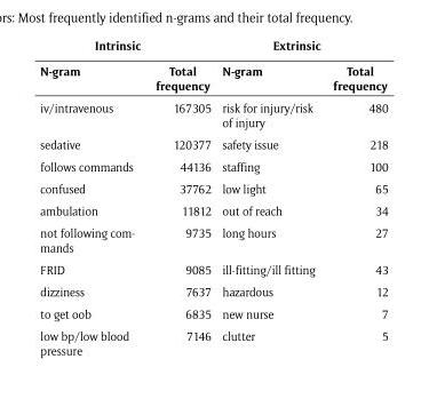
<table><thead><tr><td colspan="2">Intrinsic</td><td colspan="2">Extrinsic</td></tr><tr><td>N-gram</td><td>Total frequency</td><td>N-gram</td><td>Total frequency</td></tr></thead><tbody><tr><td>iv/intravenous</td><td>167305</td><td>risk for injury/risk of injury</td><td>480</td></tr><tr><td>sedative</td><td>120377</td><td>safety issue</td><td>218</td></tr><tr><td>follows commands</td><td>44136</td><td>staffing</td><td>100</td></tr><tr><td>confused</td><td>37762</td><td>low light</td><td>65</td></tr><tr><td>ambulation</td><td>11812</td><td>out of reach</td><td>34</td></tr><tr><td>not following com- mands</td><td>9735</td><td>long hours</td><td>27</td></tr><tr><td>FRID</td><td>9085</td><td>ill-fitting/ill fitting</td><td>43</td></tr><tr><td>dizziness</td><td>7637</td><td>hazardous</td><td>12</td></tr><tr><td>to get oob</td><td>6835</td><td>new nurse</td><td>7</td></tr><tr><td>low bp/low blood pressure</td><td>7146</td><td>clutter</td><td>5</td></tr></tbody></table>